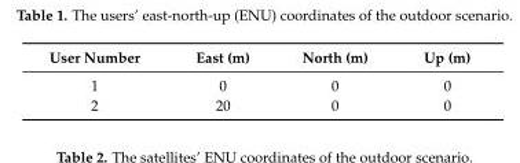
<table><thead><tr><td>User Number</td><td>East (m)</td><td>North (m)</td><td>Up (m)</td></tr></thead><tbody><tr><td>1</td><td>0</td><td>0</td><td>0</td></tr><tr><td>2</td><td>20</td><td>0</td><td>0</td></tr></tbody></table>